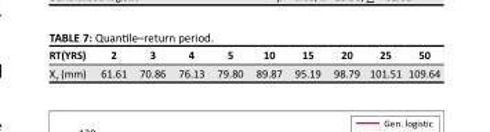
<table><thead><tr><td>RT(YRS)</td><td>2</td><td>3</td><td>4</td><td>5</td><td>10</td><td>15</td><td>20</td><td>25</td><td>50</td></tr></thead><tbody><tr><td>X<sub>T</sub> (mm)</td><td>61.61</td><td>70.86</td><td>76.13</td><td>79.80</td><td>89.87</td><td>95.19</td><td>98.79</td><td>101.51</td><td>109.64</td></tr></tbody></table>